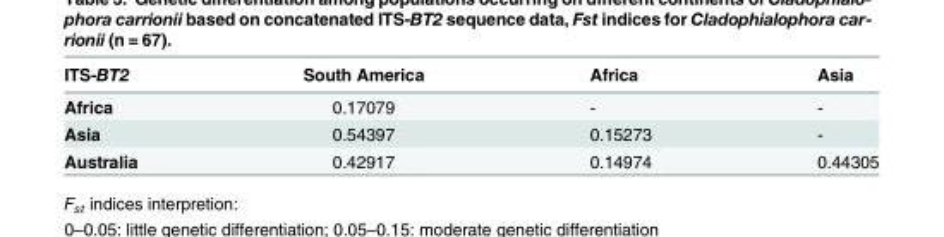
<table><thead><tr><td>ITS-BT2</td><td>South America</td><td>Africa</td><td>Asia</td></tr></thead><tbody><tr><td>Africa</td><td>0.17079</td><td>-</td><td>-</td></tr><tr><td>Asia</td><td>0.54397</td><td>0.15273</td><td>-</td></tr><tr><td>Australia</td><td>0.42917</td><td>0.14974</td><td>0.44305</td></tr></tbody></table>